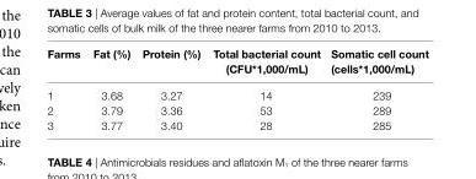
<table><thead><tr><td>Farms</td><td>Fat (%)</td><td>Protein (%)</td><td>Total bacterial count (cFU*1,000/ml)</td><td>somatic cell count (cells*1,000/ml)</td></tr></thead><tbody><tr><td>1</td><td>3.68</td><td>3.27</td><td>14</td><td>239</td></tr><tr><td>2</td><td>3.79</td><td>3.36</td><td>53</td><td>289</td></tr><tr><td>3</td><td>3.77</td><td>3.40</td><td>28</td><td>285</td></tr></tbody></table>